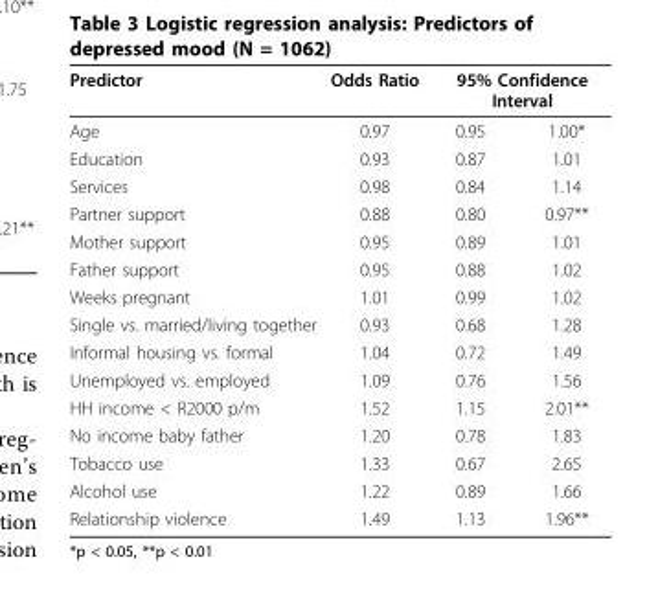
<table><thead><tr><td rowspan="2">Predictor Age</td><td rowspan="2">Odds Ratio 0.97</td><td colspan="2">95% Confidence Interval</td></tr><tr><td>0.95</td><td>1.00*</td></tr></thead><tbody><tr><td>Education</td><td>0.93</td><td>0.87</td><td>1.01</td></tr><tr><td>Services</td><td>0.98</td><td>0.84</td><td>1.14</td></tr><tr><td>Partner support</td><td>0.88</td><td>0.80</td><td>0.97**</td></tr><tr><td>Mother support</td><td>0.95</td><td>0.89</td><td>1.01</td></tr><tr><td>Father support</td><td>0.95</td><td>0.88</td><td>1.02</td></tr><tr><td>Weeks pregnant</td><td>1.01</td><td>0.99</td><td>1.02</td></tr><tr><td>Single vs. married/living together</td><td>0.93</td><td>0.68</td><td>1.28</td></tr><tr><td>Informal housing vs. formal</td><td>1.04</td><td>0.72</td><td>1.49</td></tr><tr><td>Unemployed vs. employed</td><td>1.09</td><td>0.76</td><td>1.56</td></tr><tr><td>HH income &lt; R2000 p/m</td><td>1.52</td><td>1.15</td><td>2.01**</td></tr><tr><td>No income baby father</td><td>1.20</td><td>0.78</td><td>1.83</td></tr><tr><td>Tobacco use</td><td>1.33</td><td>0.67</td><td>2.65</td></tr><tr><td>Alcohol use</td><td>1.22</td><td>0.89</td><td>1.66</td></tr><tr><td>Relationship violence</td><td>1.49</td><td>1.13</td><td>1.96**</td></tr></tbody></table>